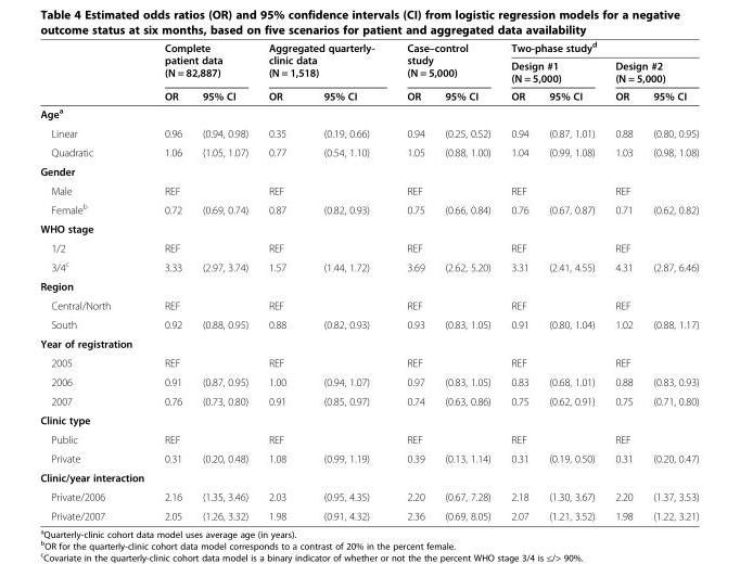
<table><thead><tr><td rowspan="3"></td><td rowspan="2" colspan="2">Complete patient data (N = 82,887)</td><td rowspan="2" colspan="2">Aggregated quarterly- clinic data (N = 1,518)</td><td rowspan="2" colspan="2">Case–control study (N = 5,000)</td><td colspan="4">Two-phase study<sup>d</sup></td></tr><tr><td colspan="2">Design #1 (N = 5,000)</td><td colspan="2">Design #2 (N = 5,000)</td></tr><tr><td>OR</td><td>95% CI</td><td>OR</td><td>95% CI</td><td>OR</td><td>95% CI</td><td>OR</td><td>95% CI</td><td>OR</td><td>95% CI</td></tr></thead><tbody><tr><td colspan="11">Age<sup>a</sup></td></tr><tr><td>Linear</td><td>0.96</td><td>(0.94, 0.98)</td><td>0.35</td><td>(0.19, 0.66)</td><td>0.94</td><td>(0.25, 0.52)</td><td>0.94</td><td>(0.87, 1.01)</td><td>0.88</td><td>(0.80, 0.95)</td></tr><tr><td>Quadratic</td><td>1.06</td><td>(1.05, 1.07)</td><td>0.77</td><td>(0.54, 1.10)</td><td>1.05</td><td>(0.88, 1.00)</td><td>1.04</td><td>(0.99, 1.08)</td><td>1.03</td><td>(0.98, 1.08)</td></tr><tr><td colspan="11">Gender</td></tr><tr><td>Male</td><td>REF</td><td></td><td>REF</td><td></td><td>REF</td><td></td><td>REF</td><td></td><td>REF</td><td></td></tr><tr><td>Female<sup>b</sup></td><td>0.72</td><td>(0.69, 0.74)</td><td>0.87</td><td>(0.82, 0.93)</td><td>0.75</td><td>(0.66, 0.84)</td><td>0.76</td><td>(0.67, 0.87)</td><td>0.71</td><td>(0.62, 0.82)</td></tr><tr><td colspan="11">WHO stage</td></tr><tr><td>1/2</td><td>REF</td><td></td><td>REF</td><td></td><td>REF</td><td></td><td>REF</td><td></td><td>REF</td><td></td></tr><tr><td>3/4<sup>c</sup></td><td>3.33</td><td>(2.97, 3.74)</td><td>1.57</td><td>(1.44, 1.72)</td><td>3.69</td><td>(2.62, 5.20)</td><td>3.31</td><td>(2.41, 4.55)</td><td>4.31</td><td>(2.87, 6.46)</td></tr><tr><td colspan="11">Region</td></tr><tr><td>Central/North</td><td>REF</td><td></td><td>REF</td><td></td><td>REF</td><td></td><td>REF</td><td></td><td>REF</td><td></td></tr><tr><td>South</td><td>0.92</td><td>(0.88, 0.95)</td><td>0.88</td><td>(0.82, 0.93)</td><td>0.93</td><td>(0.83, 1.05)</td><td>0.91</td><td>(0.80, 1.04)</td><td>1.02</td><td>(0.88, 1.17)</td></tr><tr><td colspan="11">Year of registration</td></tr><tr><td>2005</td><td>REF</td><td></td><td>REF</td><td></td><td>REF</td><td></td><td>REF</td><td></td><td>REF</td><td></td></tr><tr><td>2006</td><td>0.91</td><td>(0.87, 0.95)</td><td>1.00</td><td>(0.94, 1.07)</td><td>0.97</td><td>(0.83, 1.05)</td><td>0.83</td><td>(0.68, 1.01)</td><td>0.88</td><td>(0.83, 0.93)</td></tr><tr><td>2007</td><td>0.76</td><td>(0.73, 0.80)</td><td>0.91</td><td>(0.85, 0.97)</td><td>0.74</td><td>(0.63, 0.86)</td><td>0.75</td><td>(0.62, 0.91)</td><td>0.75</td><td>(0.71, 0.80)</td></tr><tr><td colspan="11">Clinic type</td></tr><tr><td>Public</td><td>REF</td><td></td><td>REF</td><td></td><td>REF</td><td></td><td>REF</td><td></td><td>REF</td><td></td></tr><tr><td>Private</td><td>0.31</td><td>(0.20, 0.48)</td><td>1.08</td><td>(0.99, 1.19)</td><td>0.39</td><td>(0.13, 1.14)</td><td>0.31</td><td>(0.19, 0.50)</td><td>0.31</td><td>(0.20, 0.47)</td></tr><tr><td colspan="11">Clinic/year interaction</td></tr><tr><td>Private/2006</td><td>2.16</td><td>(1.35, 3.46)</td><td>2.03</td><td>(0.95, 4.35)</td><td>2.20</td><td>(0.67, 7.28)</td><td>2.18</td><td>(1.30, 3.67)</td><td>2.20</td><td>(1.37, 3.53)</td></tr><tr><td>Private/2007</td><td>2.05</td><td>(1.26, 3.32)</td><td>1.98</td><td>(0.91, 4.32)</td><td>2.36</td><td>(0.69, 8.05)</td><td>2.07</td><td>(1.21, 3.52)</td><td>1.98</td><td>(1.22, 3.21)</td></tr></tbody></table>